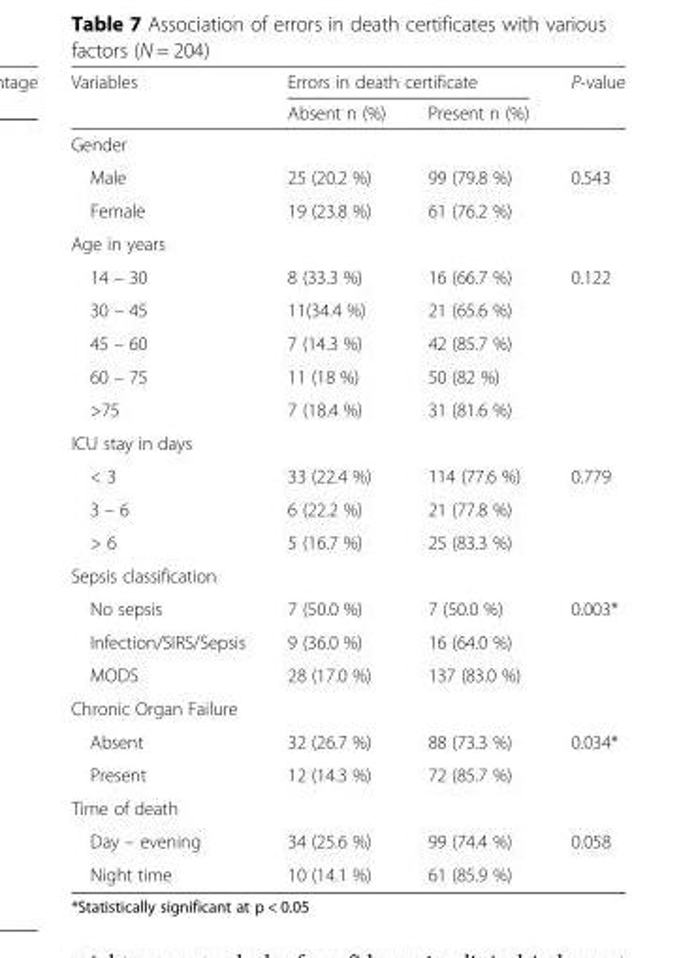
<table><thead><tr><td rowspan="2">Variables</td><td colspan="2">Errors in death certificate</td><td rowspan="2">P-value</td></tr><tr><td>Absent n (%)</td><td>Present n (%)</td></tr></thead><tbody><tr><td colspan="4">Gender</td></tr><tr><td>Male</td><td>25 (20.2 %)</td><td>99 (79.8 %)</td><td rowspan="2">0.543</td></tr><tr><td>Female</td><td>19 (23.8 %)</td><td>61 (76.2 %)</td></tr><tr><td colspan="4">Age in years</td></tr><tr><td>14 – 30</td><td>8 (33.3 %)</td><td>16 (66.7 %)</td><td rowspan="5">0.122</td></tr><tr><td>30 – 45</td><td>11(34.4 %)</td><td>21 (65.6 %)</td></tr><tr><td>45 – 60</td><td>7 (14.3 %)</td><td>42 (85.7 %)</td></tr><tr><td>60 – 75</td><td>11 (18 %)</td><td>50 (82 %)</td></tr><tr><td>&gt;75</td><td>7 (18.4 %)</td><td>31 (81.6 %)</td></tr><tr><td colspan="4">ICU stay in days</td></tr><tr><td>&lt; 3</td><td>33 (22.4 %)</td><td>114 (77.6 %)</td><td rowspan="3">0.779</td></tr><tr><td>3 – 6</td><td>6 (22.2 %)</td><td>21 (77.8 %)</td></tr><tr><td>&gt; 6</td><td>5 (16.7 %)</td><td>25 (83.3 %)</td></tr><tr><td colspan="4">Sepsis classification</td></tr><tr><td>No sepsis</td><td>7 (50.0 %)</td><td>7 (50.0 %)</td><td rowspan="3">0.003*</td></tr><tr><td>Infection/SIRS/Sepsis</td><td>9 (36.0 %)</td><td>16 (64.0 %)</td></tr><tr><td>MODS</td><td>28 (17.0 %)</td><td>137 (83.0 %)</td></tr><tr><td colspan="4">Chronic Organ Failure</td></tr><tr><td>Absent</td><td>32 (26.7 %)</td><td>88 (73.3 %)</td><td rowspan="2">0.034*</td></tr><tr><td>Present</td><td>12 (14.3 %)</td><td>72 (85.7 %)</td></tr><tr><td colspan="4">Time of death</td></tr><tr><td>Day – evening</td><td>34 (25.6 %)</td><td>99 (74.4 %)</td><td rowspan="2">0.058</td></tr><tr><td>Night time</td><td>10 (14.1 %)</td><td>61 (85.9 %)</td></tr></tbody></table>